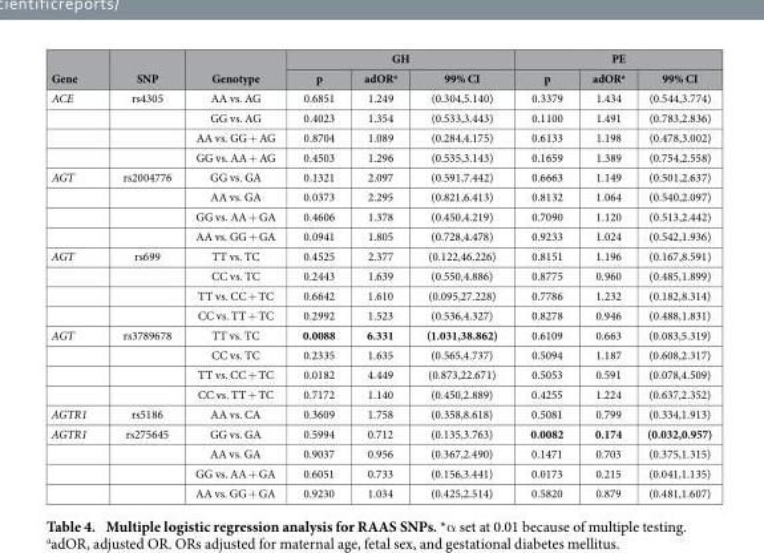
<table><thead><tr><td rowspan="2">Gene</td><td rowspan="2">SNP</td><td rowspan="2">Genotype</td><td colspan="3">GH</td><td colspan="3">PE</td></tr><tr><td>p</td><td>adOR<sup>a</sup></td><td>99% CI</td><td>p</td><td>adOR<sup>a</sup></td><td>99% CI</td></tr></thead><tbody><tr><td rowspan="4">ACE</td><td>rs4305</td><td>AA vs. AG</td><td>0.6851</td><td>1.249</td><td>(0.304,5.140)</td><td>0.3379</td><td>1.434</td><td>(0.544,3.774)</td></tr><tr><td></td><td>GG vs. AG</td><td>0.4023</td><td>1.354</td><td>(0.533,3.443)</td><td>0.1100</td><td>1.491</td><td>(0.783,2.836)</td></tr><tr><td></td><td>AA vs. GG + AG</td><td>0.8704</td><td>1.089</td><td>(0.284,4.175)</td><td>0.6133</td><td>1.198</td><td>(0.478,3.002)</td></tr><tr><td></td><td>GG vs. AA + AG</td><td>0.4503</td><td>1.296</td><td>(0.535,3.143)</td><td>0.1659</td><td>1.389</td><td>(0.754,2.558)</td></tr><tr><td rowspan="4">AGT</td><td>rs2004776</td><td>GG vs. GA</td><td>0.1321</td><td>2.097</td><td>(0.591,7.442)</td><td>0.6663</td><td>1.149</td><td>(0.501,2.637)</td></tr><tr><td></td><td>AA vs. GA</td><td>0.0373</td><td>2.295</td><td>(0.821,6.413)</td><td>0.8132</td><td>1.064</td><td>(0.540,2.097)</td></tr><tr><td></td><td>GG vs. AA + GA</td><td>0.4606</td><td>1.378</td><td>(0.450,4.219)</td><td>0.7090</td><td>1.120</td><td>(0.513,2.442)</td></tr><tr><td></td><td>AA vs. GG + GA</td><td>0.0941</td><td>1.805</td><td>(0.728,4.478)</td><td>0.9233</td><td>1.024</td><td>(0.542,1.936)</td></tr><tr><td rowspan="4">AGT</td><td>rs699</td><td>TT vs. TC</td><td>0.4525</td><td>2.377</td><td>(0.122,46.226)</td><td>0.8151</td><td>1.196</td><td>(0.167,8.591)</td></tr><tr><td></td><td>CC vs. TC</td><td>0.2443</td><td>1.639</td><td>(0.550,4.886)</td><td>0.8775</td><td>0.960</td><td>(0.485,1.899)</td></tr><tr><td></td><td>TT vs. CC + TC</td><td>0.6642</td><td>1.610</td><td>(0.095,27.228)</td><td>0.7786</td><td>1.232</td><td>(0.182,8.314)</td></tr><tr><td></td><td>CC vs. TT + TC</td><td>0.2992</td><td>1.523</td><td>(0.536,4.327)</td><td>0.8278</td><td>0.946</td><td>(0.488,1.831)</td></tr><tr><td rowspan="4">AGT</td><td>rs3789678</td><td>TT vs. TC</td><td>0.0088</td><td>6.331</td><td>(1.031,38.862)</td><td>0.6109</td><td>0.663</td><td>(0.083,5.319)</td></tr><tr><td></td><td>CC vs. TC</td><td>0.2335</td><td>1.635</td><td>(0.565,4.737)</td><td>0.5094</td><td>1.187</td><td>(0.608,2.317)</td></tr><tr><td></td><td>TT vs. CC + TC</td><td>0.0182</td><td>4.449</td><td>(0.873,22.671)</td><td>0.5053</td><td>0.591</td><td>(0.078,4.509)</td></tr><tr><td></td><td>CC vs. TT + TC</td><td>0.7172</td><td>1.140</td><td>(0.450,2.889)</td><td>0.4255</td><td>1.224</td><td>(0.637,2.352)</td></tr><tr><td>AGTR1</td><td>rs5186</td><td>AA vs. CA</td><td>0.3609</td><td>1.758</td><td>(0.358,8.618)</td><td>0.5081</td><td>0.799</td><td>(0.334,1.913)</td></tr><tr><td rowspan="4">AGTR1</td><td>rs275645</td><td>GG vs. GA</td><td>0.5994</td><td>0.712</td><td>(0.135,3.763)</td><td>0.0082</td><td>0.174</td><td>(0.032,0.957)</td></tr><tr><td></td><td>AA vs. GA</td><td>0.9037</td><td>0.956</td><td>(0.367,2.490)</td><td>0.1471</td><td>0.703</td><td>(0.375,1.315)</td></tr><tr><td></td><td>GG vs. AA + GA</td><td>0.6051</td><td>0.733</td><td>(0.156,3.441)</td><td>0.0173</td><td>0.215</td><td>(0.041,1.135)</td></tr><tr><td></td><td>AA vs. GG + GA</td><td>0.9230</td><td>1.034</td><td>(0.425,2.514)</td><td>0.5820</td><td>0.879</td><td>(0.481,1.607)</td></tr></tbody></table>